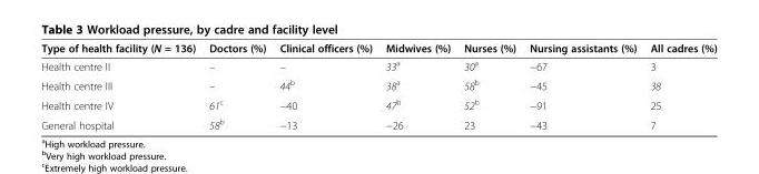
<table><thead><tr><td>Type of health facility (N = 136)</td><td>Doctors (%)</td><td>Clinical officers (%)</td><td>Midwives (%)</td><td>Nurses (%)</td><td>Nursing assistants (%)</td><td>All cadres (%)</td></tr></thead><tbody><tr><td>Health centre II</td><td>–</td><td>–</td><td>33<sup>a</sup></td><td>30<sup>a</sup></td><td>−67</td><td>3</td></tr><tr><td>Health centre III</td><td>–</td><td>44<sup>b</sup></td><td>38<sup>a</sup></td><td>58<sup>b</sup></td><td>−45</td><td>38</td></tr><tr><td>Health centre IV</td><td>61<sup>c</sup></td><td>−40</td><td>47<sup>b</sup></td><td>52<sup>b</sup></td><td>−91</td><td>25</td></tr><tr><td>General hospital</td><td>58<sup>b</sup></td><td>−13</td><td>−26</td><td>23</td><td>−43</td><td>7</td></tr></tbody></table>